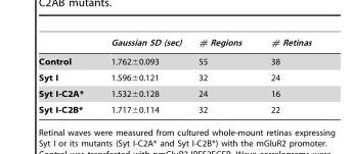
<table><thead><tr><td></td><td>Gaussian SD (sec)</td><td># Regions</td><td># Retinas</td></tr></thead><tbody><tr><td>Control</td><td>1.762±0.093</td><td>55</td><td>38</td></tr><tr><td>Syt I</td><td>1.596±0.121</td><td>32</td><td>24</td></tr><tr><td>Syt I-C2A*</td><td>1.532±0.128</td><td>24</td><td>16</td></tr><tr><td>Syt I-C2B*</td><td>1.717±0.114</td><td>32</td><td>22</td></tr></tbody></table>